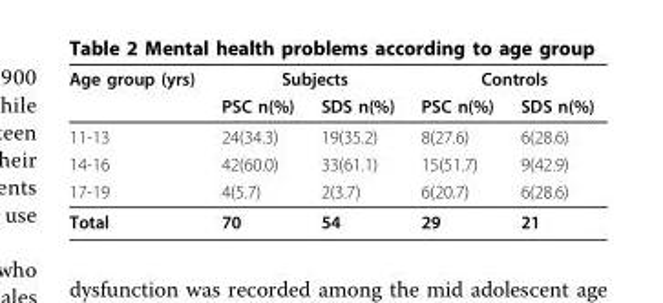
<table><thead><tr><td rowspan="2">Age group (yrs)</td><td colspan="2">Subjects</td><td colspan="2">Controls</td></tr><tr><td>PSC n(%)</td><td>SDS n(%)</td><td>PSC n(%)</td><td>SDS n(%)</td></tr></thead><tbody><tr><td>11-13</td><td>24(34.3)</td><td>19(35.2)</td><td>8(27.6)</td><td>6(28.6)</td></tr><tr><td>14-16</td><td>42(60.0)</td><td>33(61.1)</td><td>15(51.7)</td><td>9(42.9)</td></tr><tr><td>17-19</td><td>4(5.7)</td><td>2(3.7)</td><td>6(20.7)</td><td>6(28.6)</td></tr><tr><td>Total</td><td>70</td><td>54</td><td>29</td><td>21</td></tr></tbody></table>